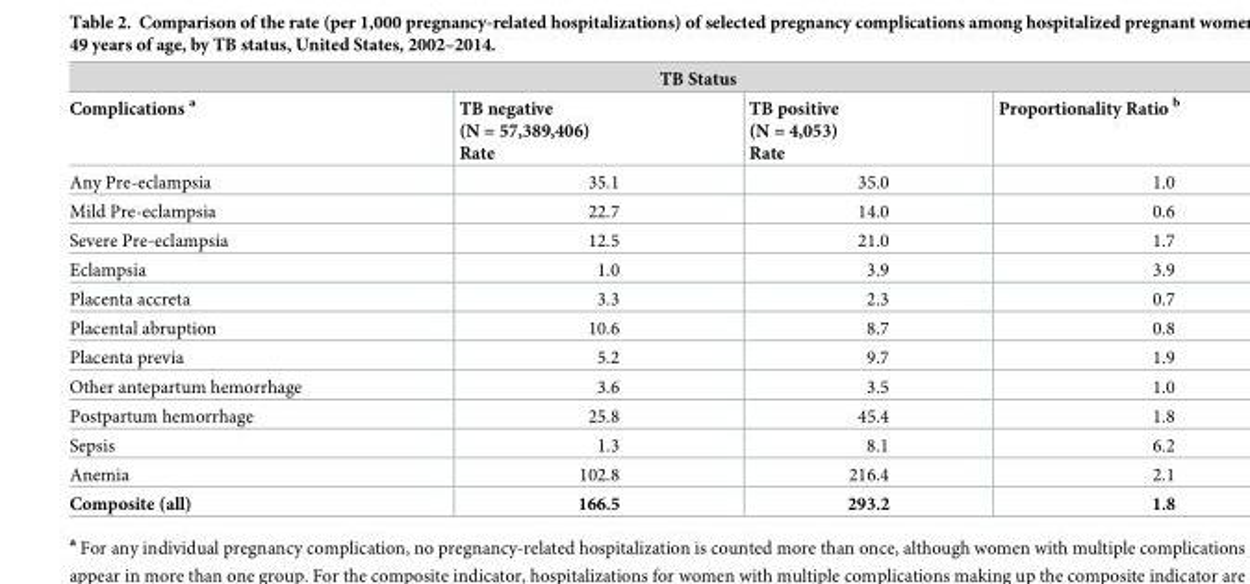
<table><thead><tr><td colspan="4">TB Status</td></tr><tr><td>Complications <sup>a</sup></td><td>TB negative (N = 57,389,406) Rate</td><td>TB positive (N = 4,053) Rate</td><td>Proportionality Ratio <sup>b</sup></td></tr></thead><tbody><tr><td>Any Pre-eclampsia</td><td>35.1</td><td>35.0</td><td>1.0</td></tr><tr><td>Mild Pre-eclampsia</td><td>22.7</td><td>14.0</td><td>0.6</td></tr><tr><td>Severe Pre-eclampsia</td><td>12.5</td><td>21.0</td><td>1.7</td></tr><tr><td>Eclampsia</td><td>1.0</td><td>3.9</td><td>3.9</td></tr><tr><td>Placenta accreta</td><td>3.3</td><td>2.3</td><td>0.7</td></tr><tr><td>Placental abruption</td><td>10.6</td><td>8.7</td><td>0.8</td></tr><tr><td>Placenta previa</td><td>5.2</td><td>9.7</td><td>1.9</td></tr><tr><td>Other antepartum hemorrhage</td><td>3.6</td><td>3.5</td><td>1.0</td></tr><tr><td>Postpartum hemorrhage</td><td>25.8</td><td>45.4</td><td>1.8</td></tr><tr><td>Sepsis</td><td>1.3</td><td>8.1</td><td>6.2</td></tr><tr><td>Anemia</td><td>102.8</td><td>216.4</td><td>2.1</td></tr><tr><td>Composite (all)</td><td>166.5</td><td>293.2</td><td>1.8</td></tr></tbody></table>